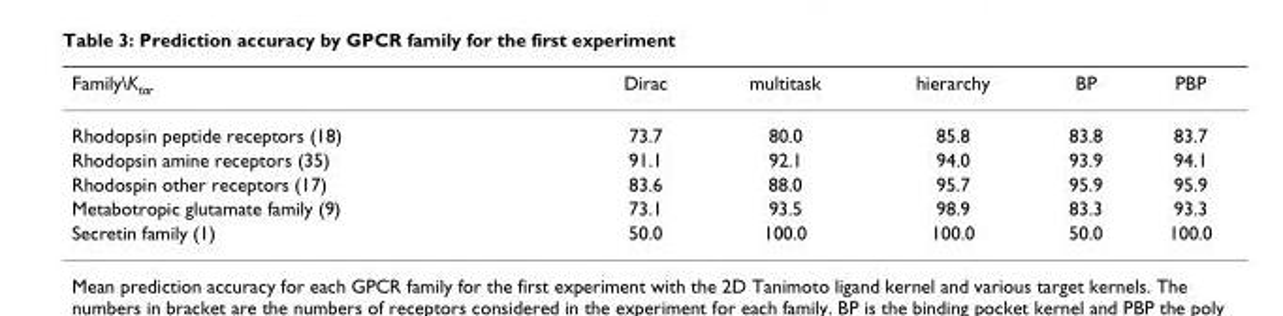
<table><thead><tr><td>Family\K<sub>tar</sub></td><td>Dirac</td><td>multitask</td><td>hierarchy</td><td>BP</td><td>PBP</td></tr></thead><tbody><tr><td>Rhodopsin peptide receptors (18)</td><td>73.7</td><td>80.0</td><td>85.8</td><td>83.8</td><td>83.7</td></tr><tr><td>Rhodopsin amine receptors (35)</td><td>91.1</td><td>92.1</td><td>94.0</td><td>93.9</td><td>94.1</td></tr><tr><td>Rhodospin other receptors (17)</td><td>83.6</td><td>88.0</td><td>95.7</td><td>95.9</td><td>95.9</td></tr><tr><td>Metabotropic glutamate family (9)</td><td>73.1</td><td>93.5</td><td>98.9</td><td>83.3</td><td>93.3</td></tr><tr><td>Secretin family (1)</td><td>50.0</td><td>100.0</td><td>100.0</td><td>50.0</td><td>100.0</td></tr></tbody></table>